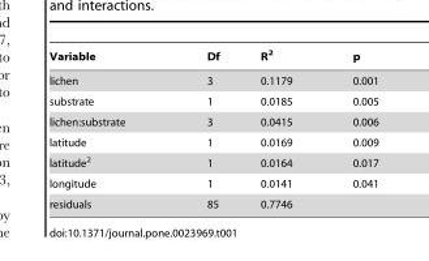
<table><thead><tr><td>Variable</td><td>Df</td><td>R<sup>2</sup></td><td>p</td></tr></thead><tbody><tr><td>lichen</td><td>3</td><td>0.1179</td><td>0.001</td></tr><tr><td>substrate</td><td>1</td><td>0.0185</td><td>0.005</td></tr><tr><td>lichen:substrate</td><td>3</td><td>0.0415</td><td>0.006</td></tr><tr><td>latitude</td><td>1</td><td>0.0169</td><td>0.009</td></tr><tr><td>latitude<sup>2</sup></td><td>1</td><td>0.0164</td><td>0.017</td></tr><tr><td>longitude</td><td>1</td><td>0.0141</td><td>0.041</td></tr><tr><td>residuals</td><td>85</td><td>0.7746</td><td></td></tr></tbody></table>